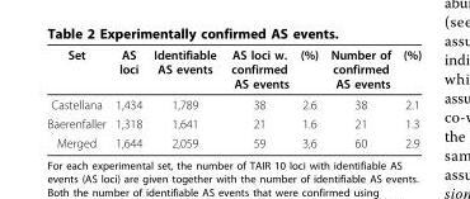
<table><thead><tr><td>Set</td><td>AS loci</td><td>Identifiable AS events</td><td>AS loci w. confirmed AS events</td><td>(%)</td><td>Number of confirmed AS events</td><td>(%)</td></tr></thead><tbody><tr><td>Castellana</td><td>1,434</td><td>1,789</td><td>38</td><td>2.6</td><td>38</td><td>2.1</td></tr><tr><td>Baerenfaller</td><td>1,318</td><td>1,641</td><td>21</td><td>1.6</td><td>21</td><td>1.3</td></tr><tr><td>Merged</td><td>1,644</td><td>2,059</td><td>59</td><td>3,6</td><td>60</td><td>2.9</td></tr></tbody></table>